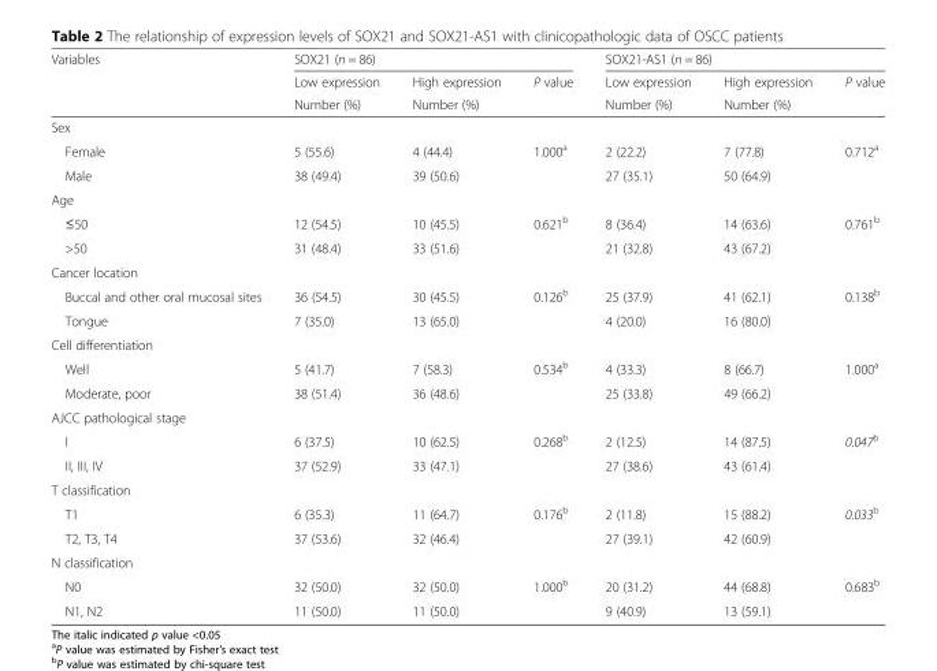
<table><thead><tr><td rowspan="3">Variables</td><td colspan="3">SOX21 (n = 86)</td><td colspan="3">SOX21-AS1 (n = 86)</td></tr><tr><td rowspan="2">Low expression Number (%)</td><td rowspan="2">High expression Number (%)</td><td rowspan="2">P value</td><td rowspan="2">Low expression Number (%)</td><td rowspan="2">High expression Number (%)</td><td rowspan="2">P value</td></tr><tr></tr></thead><tbody><tr><td colspan="7">Sex</td></tr><tr><td>Female</td><td>5 (55.6)</td><td>4 (44.4)</td><td rowspan="2">1.000<sup>a</sup></td><td>2 (22.2)</td><td>7 (77.8)</td><td rowspan="2">0.712<sup>a</sup></td></tr><tr><td>Male</td><td>38 (49.4)</td><td>39 (50.6)</td><td>27 (35.1)</td><td>50 (64.9)</td></tr><tr><td colspan="7">Age</td></tr><tr><td>≤50</td><td>12 (54.5)</td><td>10 (45.5)</td><td rowspan="2">0.621<sup>b</sup></td><td>8 (36.4)</td><td>14 (63.6)</td><td rowspan="2">0.761<sup>b</sup></td></tr><tr><td>&gt;50</td><td>31 (48.4)</td><td>33 (51.6)</td><td>21 (32.8)</td><td>43 (67.2)</td></tr><tr><td colspan="7">Cancer location</td></tr><tr><td>Buccal and other oral mucosal sites</td><td>36 (54.5)</td><td>30 (45.5)</td><td>0.126<sup>b</sup></td><td>25 (37.9)</td><td>41 (62.1)</td><td rowspan="2">0.138<sup>b</sup></td></tr><tr><td>Tongue</td><td>7 (35.0)</td><td>13 (65.0)</td><td></td><td>4 (20.0)</td><td>16 (80.0)</td></tr><tr><td colspan="7">Cell differentiation</td></tr><tr><td>Well</td><td>5 (41.7)</td><td>7 (58.3)</td><td rowspan="2">0.534<sup>b</sup></td><td>4 (33.3)</td><td>8 (66.7)</td><td rowspan="2">1.000<sup>a</sup></td></tr><tr><td>Moderate, poor</td><td>38 (51.4)</td><td>36 (48.6)</td><td>25 (33.8)</td><td>49 (66.2)</td></tr><tr><td colspan="7">AJCC pathological stage</td></tr><tr><td>I</td><td>6 (37.5)</td><td>10 (62.5)</td><td rowspan="2">0.268<sup>b</sup></td><td>2 (12.5)</td><td>14 (87.5)</td><td rowspan="2">0.047<sup>b</sup></td></tr><tr><td>II, III, IV</td><td>37 (52.9)</td><td>33 (47.1)</td><td>27 (38.6)</td><td>43 (61.4)</td></tr><tr><td colspan="7">T classification</td></tr><tr><td>T1</td><td>6 (35.3)</td><td>11 (64.7)</td><td rowspan="2">0.176<sup>b</sup></td><td>2 (11.8)</td><td>15 (88.2)</td><td rowspan="2">0.033<sup>b</sup></td></tr><tr><td>T2, T3, T4</td><td>37 (53.6)</td><td>32 (46.4)</td><td>27 (39.1)</td><td>42 (60.9)</td></tr><tr><td colspan="7">N classification</td></tr><tr><td>N0</td><td>32 (50.0)</td><td>32 (50.0)</td><td rowspan="2">1.000<sup>b</sup></td><td>20 (31.2)</td><td>44 (68.8)</td><td rowspan="2">0.683<sup>b</sup></td></tr><tr><td>N1, N2</td><td>11 (50.0)</td><td>11 (50.0)</td><td>9 (40.9)</td><td>13 (59.1)</td></tr></tbody></table>